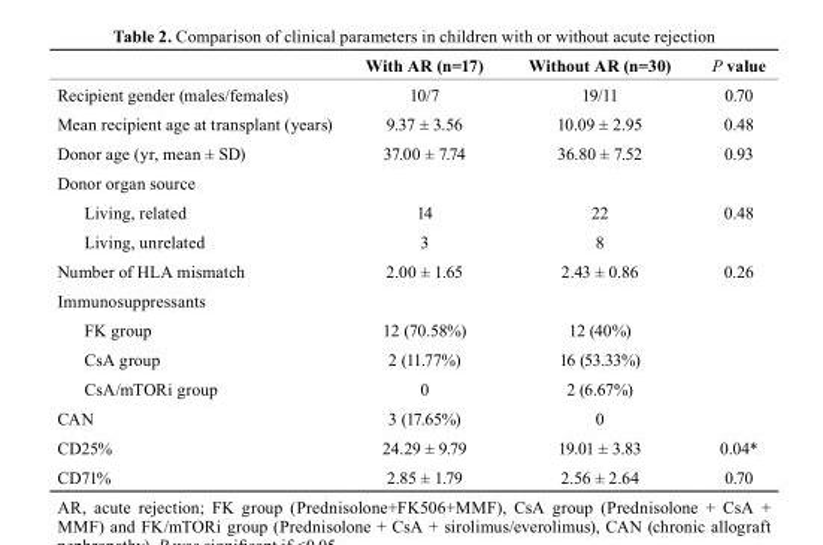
<table><thead><tr><td></td><td>With Ar (n=17)</td><td>Without Ar (n=30)</td><td>P value</td></tr></thead><tbody><tr><td>Recipient gender (males/females)</td><td>10/7</td><td>19/11</td><td>0.70</td></tr><tr><td>Mean recipient age at transplant (years)</td><td>9.37 ± 3.56</td><td>10.09 ± 2.95</td><td>0.48</td></tr><tr><td>Donor age (yr, mean ± SD)</td><td>37.00 ± 7.74</td><td>36.80 ± 7.52</td><td>0.93</td></tr><tr><td colspan="4">Donor organ source</td></tr><tr><td>Living, related</td><td>14</td><td>22</td><td>0.48</td></tr><tr><td>Living, unrelated</td><td>3</td><td>8</td><td></td></tr><tr><td>Number of HLA mismatch</td><td>2.00 ± 1.65</td><td>2.43 ± 0.86</td><td>0.26</td></tr><tr><td colspan="4">Immunosuppressants</td></tr><tr><td>FK group</td><td>12 (70.58%)</td><td>12 (40%)</td><td></td></tr><tr><td>CsA group</td><td>2 (11.77%)</td><td>16 (53.33%)</td><td></td></tr><tr><td>CsA/mTORi group</td><td>0</td><td>2 (6.67%)</td><td></td></tr><tr><td>CAN</td><td>3 (17.65%)</td><td>0</td><td></td></tr><tr><td>CD25%</td><td>24.29 ± 9.79</td><td>19.01 ± 3.83</td><td>0.04*</td></tr><tr><td>CD71%</td><td>2.85 ± 1.79</td><td>2.56 ± 2.64</td><td>0.70</td></tr></tbody></table>